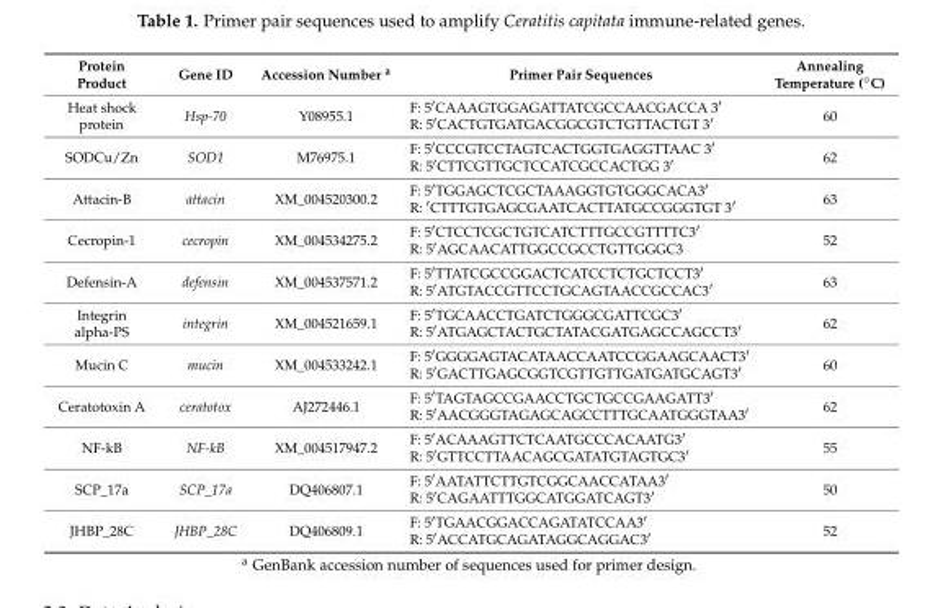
<table><thead><tr><td>Protein Product</td><td>Gene ID</td><td>Accession Number <sup>a</sup></td><td>Primer Pair Sequences</td><td>Annealing Temperature (◦C)</td></tr></thead><tbody><tr><td>Heat shock protein</td><td>Hsp-70</td><td>Y08955.1</td><td>F: 5′CAAAGTGGAGATTATCGCCAACGACCA 3′ R: 5′CACTGTGATGACGGCGTCTGTTACTGT 3′</td><td>60</td></tr><tr><td>SODCu/Zn</td><td>SOD1</td><td>M76975.1</td><td>F: 5′CCCGTCCTAGTCACTGGTGAGGTTAAC 3′ R: 5′CTTCGTTGCTCCATCGCCACTGG 3′</td><td>62</td></tr><tr><td>Attacin-B</td><td>attacin</td><td>XM_004520300.2</td><td>F: 5′TGGAGCTCGCTAAAGGTGTGGGCACA3′ R: ′CTTTGTGAGCGAATCACTTATGCCGGGTGT 3′</td><td>63</td></tr><tr><td>Cecropin-1</td><td>cecropin</td><td>XM_004534275.2</td><td>F: 5′CTCCTCGCTGTCATCTTTGCCGTTTTC3′ R: 5′AGCAACATTGGCCGCCTGTTGGGC3</td><td>52</td></tr><tr><td>Defensin-A</td><td>defensin</td><td>XM_004537571.2</td><td>F: 5′TTATCGCCGGACTCATCCTCTGCTCCT3′ R: 5′ATGTACCGTTCCTGCAGTAACCGCCAC3′</td><td>63</td></tr><tr><td>Integrin alpha-PS</td><td>integrin</td><td>XM_004521659.1</td><td>F: 5′TGCAACCTGATCTGGGCGATTCGC3′ R: 5′ATGAGCTACTGCTATACGATGAGCCAGCCT3′</td><td>62</td></tr><tr><td>Mucin C</td><td>mucin</td><td>XM_004533242.1</td><td>F: 5′GGGGAGTACATAACCAATCCGGAAGCAACT3′ R: 5′GACTTGAGCGGTCGTTGTTGATGATGCAGT3′</td><td>60</td></tr><tr><td>Ceratotoxin A</td><td>ceratotox</td><td>AJ272446.1</td><td>F: 5′TAGTAGCCGAACCTGCTGCCGAAGATT3′ R: 5′AACGGGTAGAGCAGCCTTTGCAATGGGTAA3′</td><td>62</td></tr><tr><td>NF-kB</td><td>NF-kB</td><td>XM_004517947.2</td><td>F: 5′ACAAAGTTCTCAATGCCCACAATG3′ R: 5′GTTCCTTAACAGCGATATGTAGTGC3′</td><td>55</td></tr><tr><td>SCP_17a</td><td>SCP_17a</td><td>DQ406807.1</td><td>F: 5′AATATTCTTGTCGGCAACCATAA3′ R: 5′CAGAATTTGGCATGGATCAGT3′</td><td>50</td></tr><tr><td>JHBP_28C</td><td>JHBP_28C</td><td>DQ406809.1</td><td>F: 5′TGAACGGACCAGATATCCAA3′ R: 5′ACCATGCAGATAGGCAGGAC3′</td><td>52</td></tr></tbody></table>